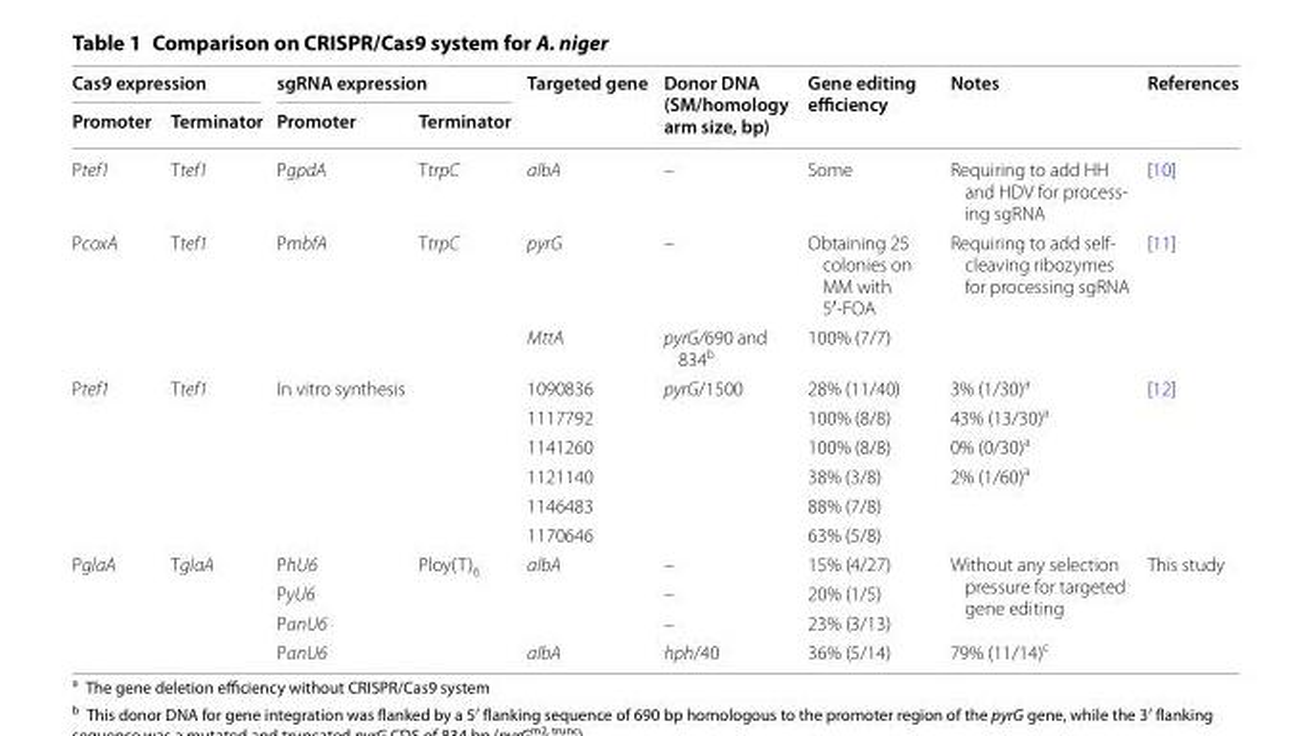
<table><thead><tr><td colspan="2">Cas9 expression</td><td colspan="2">sgRNA expression</td><td rowspan="2">Targeted gene</td><td rowspan="2">Donor DNA (SM/homology arm size, bp)</td><td rowspan="2">Gene editing efficiency</td><td rowspan="2">Notes</td><td rowspan="2">References</td></tr><tr><td>Promoter</td><td>Terminator</td><td>Promoter</td><td>Terminator</td></tr></thead><tbody><tr><td>Ptef1</td><td>Ttef1</td><td>PgpdA</td><td>TtrpC</td><td>albA</td><td>–</td><td>Some</td><td>Requiring to add HH and HDV for process- ing sgRNA</td><td>[10]</td></tr><tr><td rowspan="2">PcoxA</td><td rowspan="2">Ttef1</td><td rowspan="2">PmbfA</td><td rowspan="2">TtrpC</td><td>pyrG</td><td>–</td><td>Obtaining 25 colonies on MM with 5′-FOA</td><td rowspan="2">Requiring to add self- cleaving ribozymes for processing sgRNA</td><td rowspan="2">[11]</td></tr><tr><td>MttA</td><td>pyrG/690 and 834<sup>b</sup></td><td>100% (7/7)</td></tr><tr><td rowspan="6">Ptef1</td><td rowspan="6">Ttef1</td><td rowspan="6" colspan="2">In vitro synthesis</td><td>1090836</td><td rowspan="6">pyrG/1500</td><td>28% (11/40)</td><td>3% (1/30)<sup>a</sup></td><td rowspan="6">[12]</td></tr><tr><td>1117792</td><td>100% (8/8)</td><td>43% (13/30)<sup>a</sup></td></tr><tr><td>1141260</td><td>100% (8/8)</td><td>0% (0/30)<sup>a</sup></td></tr><tr><td>1121140</td><td>38% (3/8)</td><td>2% (1/60)<sup>a</sup></td></tr><tr><td>1146483</td><td>88% (7/8)</td><td></td></tr><tr><td>1170646</td><td>63% (5/8)</td><td></td></tr><tr><td rowspan="4">PglaA</td><td rowspan="4">TglaA</td><td>PhU6</td><td>Ploy(T)<sub>6</sub></td><td>albA</td><td>–</td><td>15% (4/27)</td><td rowspan="3">Without any selection pressure for targeted gene editing</td><td rowspan="4">This study</td></tr><tr><td>PyU6</td><td></td><td></td><td>–</td><td>20% (1/5)</td></tr><tr><td>PanU6</td><td></td><td></td><td>–</td><td>23% (3/13)</td></tr><tr><td>PanU6</td><td></td><td>albA</td><td>hph/40</td><td>36% (5/14)</td><td>79% (11/14)<sup>c</sup></td></tr></tbody></table>